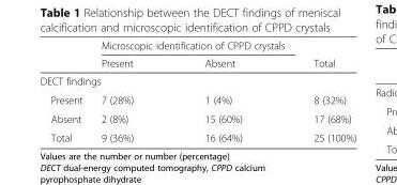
<table><thead><tr><td rowspan="2"></td><td colspan="2">Microscopic identification of CPPD crystals</td><td rowspan="2">Total</td></tr><tr><td>Present</td><td>Absent</td></tr></thead><tbody><tr><td colspan="4">DECT findings</td></tr><tr><td>Present</td><td>7 (28%)</td><td>1 (4%)</td><td>8 (32%)</td></tr><tr><td>Absent</td><td>2 (8%)</td><td>15 (60%)</td><td>17 (68%)</td></tr><tr><td>Total</td><td>9 (36%)</td><td>16 (64%)</td><td>25 (100%)</td></tr></tbody></table>